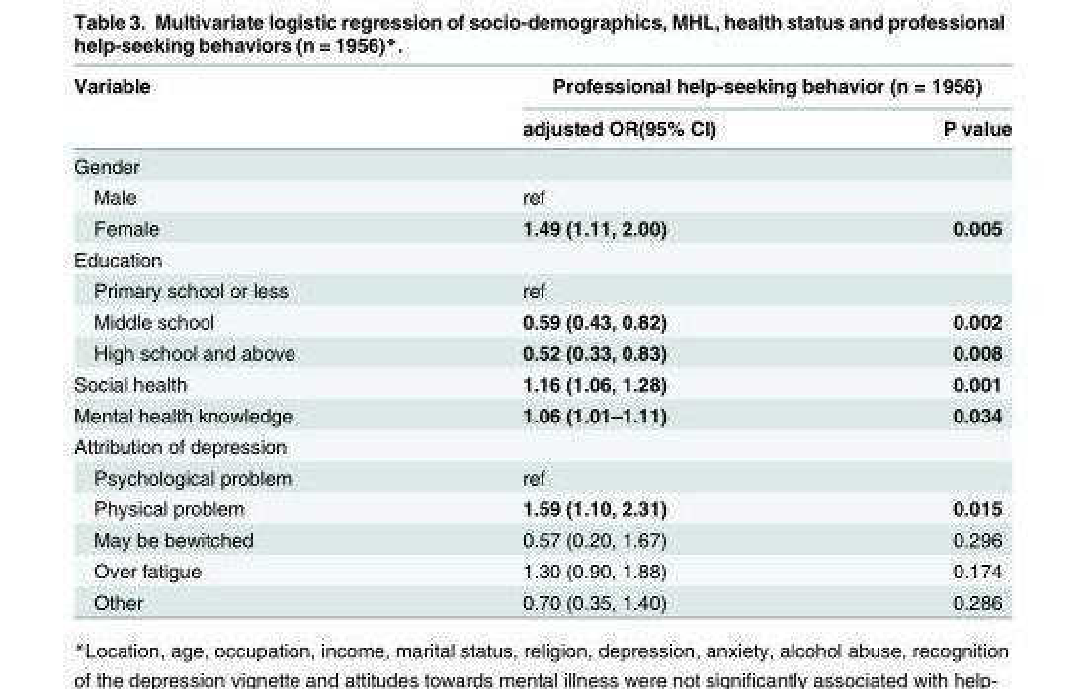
<table><thead><tr><td rowspan="2">Variable</td><td colspan="2">Professional help-seeking behavior (n = 1956)</td></tr><tr><td>adjusted OR(95% CI)</td><td>P value</td></tr></thead><tbody><tr><td colspan="3">Gender</td></tr><tr><td>Male</td><td>ref</td><td></td></tr><tr><td>Female</td><td>1.49 (1.11, 2.00)</td><td>0.005</td></tr><tr><td colspan="3">Education</td></tr><tr><td>Primary school or less</td><td>ref</td><td></td></tr><tr><td>Middle school</td><td>0.59 (0.43, 0.82)</td><td>0.002</td></tr><tr><td>High school and above</td><td>0.52 (0.33, 0.83)</td><td>0.008</td></tr><tr><td>Social health</td><td>1.16 (1.06, 1.28)</td><td>0.001</td></tr><tr><td>Mental health knowledge</td><td>1.06 (1.01–1.11)</td><td>0.034</td></tr><tr><td colspan="3">Attribution of depression</td></tr><tr><td>Psychological problem</td><td>ref</td><td></td></tr><tr><td>Physical problem</td><td>1.59 (1.10, 2.31)</td><td>0.015</td></tr><tr><td>May be bewitched</td><td>0.57 (0.20, 1.67)</td><td>0.296</td></tr><tr><td>Over fatigue</td><td>1.30 (0.90, 1.88)</td><td>0.174</td></tr><tr><td>Other</td><td>0.70 (0.35, 1.40)</td><td>0.286</td></tr></tbody></table>